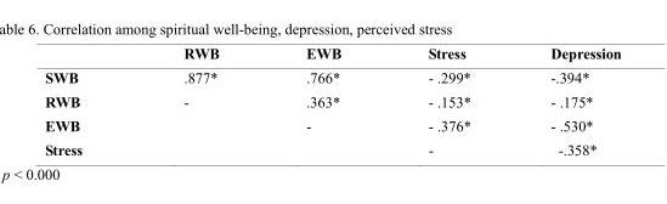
<table><thead><tr><td></td><td>RWB</td><td>EWB</td><td>Stress</td><td>Depression</td></tr></thead><tbody><tr><td>SWB</td><td>.877*</td><td>.766*</td><td>- .299*</td><td>-.394*</td></tr><tr><td>RWB</td><td>-</td><td>.363*</td><td>- .153*</td><td>- .175*</td></tr><tr><td>EWB</td><td></td><td>-</td><td>- .376*</td><td>- .530*</td></tr><tr><td>Stress</td><td></td><td></td><td>-</td><td>-.358*</td></tr></tbody></table>